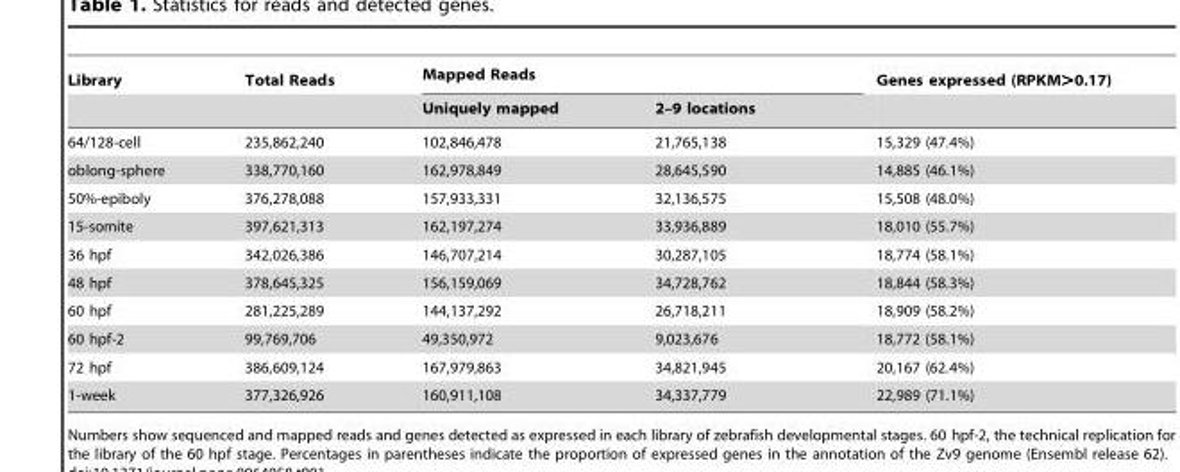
<table><thead><tr><td rowspan="2">Library</td><td rowspan="2">Total Reads</td><td colspan="2">Mapped Reads</td><td rowspan="2">Genes expressed (RPKM&gt;0.17)</td></tr><tr><td>Uniquely mapped</td><td>2–9 locations</td></tr></thead><tbody><tr><td>64/128-cell</td><td>235,862,240</td><td>102,846,478</td><td>21,765,138</td><td>15,329 (47.4%)</td></tr><tr><td>oblong-sphere</td><td>338,770,160</td><td>162,978,849</td><td>28,645,590</td><td>14,885 (46.1%)</td></tr><tr><td>50%-epiboly</td><td>376,278,088</td><td>157,933,331</td><td>32,136,575</td><td>15,508 (48.0%)</td></tr><tr><td>15-somite</td><td>397,621,313</td><td>162,197,274</td><td>33,936,889</td><td>18,010 (55.7%)</td></tr><tr><td>36 hpf</td><td>342,026,386</td><td>146,707,214</td><td>30,287,105</td><td>18,774 (58.1%)</td></tr><tr><td>48 hpf</td><td>378,645,325</td><td>156,159,069</td><td>34,728,762</td><td>18,844 (58.3%)</td></tr><tr><td>60 hpf</td><td>281,225,289</td><td>144,137,292</td><td>26,718,211</td><td>18,909 (58.2%)</td></tr><tr><td>60 hpf-2</td><td>99,769,706</td><td>49,350,972</td><td>9,023,676</td><td>18,772 (58.1%)</td></tr><tr><td>72 hpf</td><td>386,609,124</td><td>167,979,863</td><td>34,821,945</td><td>20,167 (62.4%)</td></tr><tr><td>1-week</td><td>377,326,926</td><td>160,911,108</td><td>34,337,779</td><td>22,989 (71.1%)</td></tr></tbody></table>